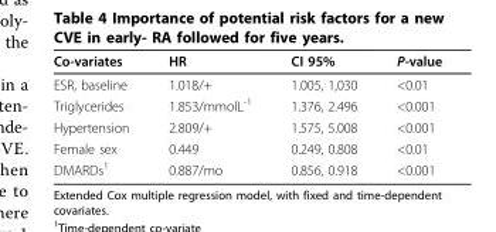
<table><thead><tr><td>Co-variates</td><td>HR</td><td>CI 95%</td><td>P-value</td></tr></thead><tbody><tr><td>ESR, baseline</td><td>1.018/+</td><td>1.005, 1,030</td><td>&lt;0.01</td></tr><tr><td>Triglycerides</td><td>1.853/mmolL<sup>-1</sup></td><td>1.376, 2.496</td><td>&lt;0.001</td></tr><tr><td>Hypertension</td><td>2.809/+</td><td>1.575, 5.008</td><td>&lt;0.001</td></tr><tr><td>Female sex</td><td>0.449</td><td>0.249, 0.808</td><td>&lt;0.01</td></tr><tr><td>DMARDs<sup>1</sup></td><td>0.887/mo</td><td>0.856, 0.918</td><td>&lt;0.001</td></tr></tbody></table>